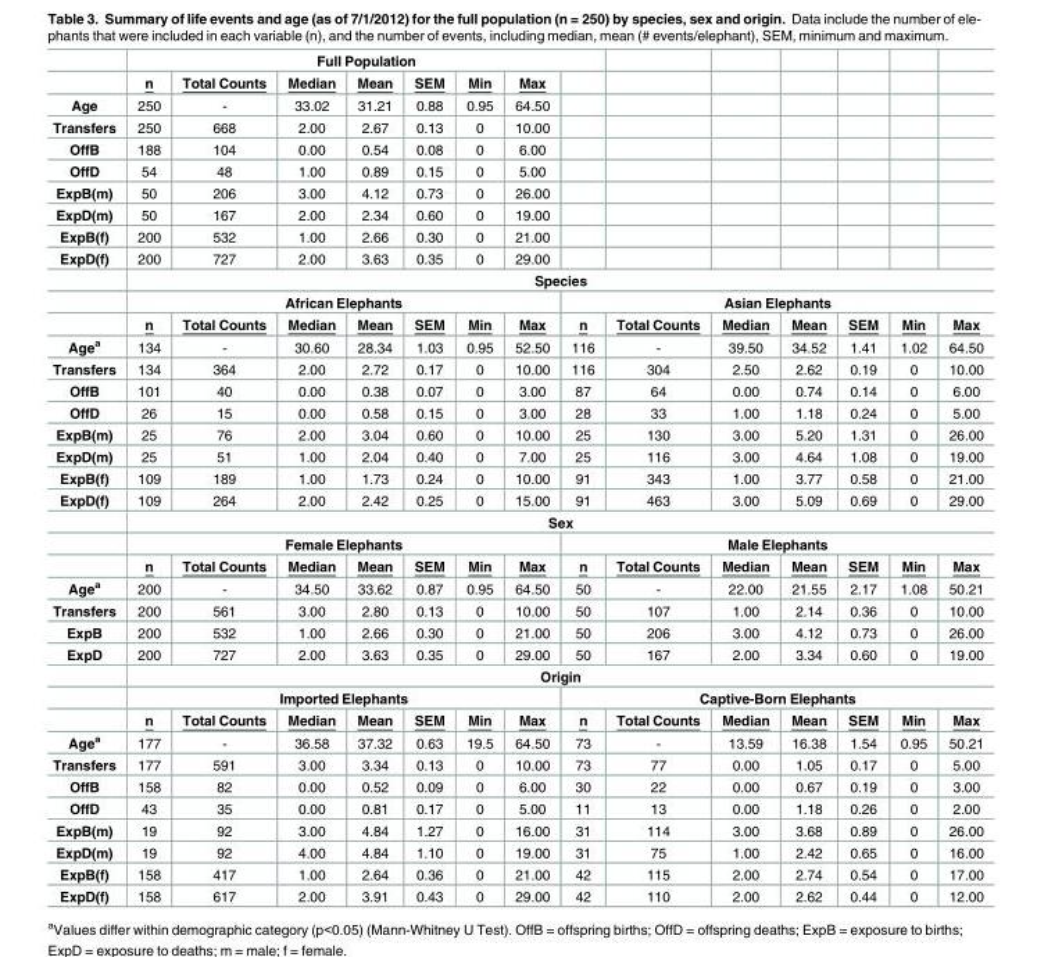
<table><thead><tr><td rowspan="2"></td><td colspan="8">Full Population</td><td rowspan="2"></td><td rowspan="2"></td><td rowspan="2"></td><td rowspan="2"></td><td rowspan="2"></td><td rowspan="2"></td></tr><tr><td>n</td><td>Total Counts</td><td>Median</td><td>Mean</td><td>SEM</td><td>Min</td><td>Max</td><td></td></tr></thead><tbody><tr><td>Age</td><td>250</td><td>-</td><td>33.02</td><td>31.21</td><td>0.88</td><td>0.95</td><td>64.50</td><td></td><td></td><td></td><td></td><td></td><td></td><td></td></tr><tr><td>Transfers</td><td>250</td><td>668</td><td>2.00</td><td>2.67</td><td>0.13</td><td>0</td><td>10.00</td><td></td><td></td><td></td><td></td><td></td><td></td><td></td></tr><tr><td>OffB</td><td>188</td><td>104</td><td>0.00</td><td>0.54</td><td>0.08</td><td>0</td><td>6.00</td><td></td><td></td><td></td><td></td><td></td><td></td><td></td></tr><tr><td>OffD</td><td>54</td><td>48</td><td>1.00</td><td>0.89</td><td>0.15</td><td>0</td><td>5.00</td><td></td><td></td><td></td><td></td><td></td><td></td><td></td></tr><tr><td>ExpB(m)</td><td>50</td><td>206</td><td>3.00</td><td>4.12</td><td>0.73</td><td>0</td><td>26.00</td><td></td><td></td><td></td><td></td><td></td><td></td><td></td></tr><tr><td>ExpD(m)</td><td>50</td><td>167</td><td>2.00</td><td>2.34</td><td>0.60</td><td>0</td><td>19.00</td><td></td><td></td><td></td><td></td><td></td><td></td><td></td></tr><tr><td>ExpB(f)</td><td>200</td><td>532</td><td>1.00</td><td>2.66</td><td>0.30</td><td>0</td><td>21.00</td><td></td><td></td><td></td><td></td><td></td><td></td><td></td></tr><tr><td rowspan="4">ExpD(f)</td><td>200</td><td>727</td><td>2.00</td><td>3.63</td><td>0.35</td><td>0</td><td>29.00</td><td></td><td></td><td></td><td></td><td></td><td></td><td></td></tr><tr><td colspan="14">Species</td></tr><tr><td colspan="7">African Elephants</td><td colspan="7">Asian Elephants</td></tr><tr><td>n</td><td>Total Counts</td><td>Median</td><td>Mean</td><td>SEM</td><td>Min</td><td>Max</td><td>n</td><td>Total Counts</td><td>Median</td><td>Mean</td><td>SEM</td><td>Min</td><td>Max</td></tr><tr><td>Age<sup>a</sup></td><td>134</td><td>-</td><td>30.60</td><td>28.34</td><td>1.03</td><td>0.95</td><td>52.50</td><td>116</td><td>-</td><td>39.50</td><td>34.52</td><td>1.41</td><td>1.02</td><td>64.50</td></tr><tr><td>Transfers</td><td>134</td><td>364</td><td>2.00</td><td>2.72</td><td>0.17</td><td>0</td><td>10.00</td><td>116</td><td>304</td><td>2.50</td><td>2.62</td><td>0.19</td><td>0</td><td>10.00</td></tr><tr><td>OffB</td><td>101</td><td>40</td><td>0.00</td><td>0.38</td><td>0.07</td><td>0</td><td>3.00</td><td>87</td><td>64</td><td>0.00</td><td>0.74</td><td>0.14</td><td>0</td><td>6.00</td></tr><tr><td>OffD</td><td>26</td><td>15</td><td>0.00</td><td>0.58</td><td>0.15</td><td>0</td><td>3.00</td><td>28</td><td>33</td><td>1.00</td><td>1.18</td><td>0.24</td><td>0</td><td>5.00</td></tr><tr><td>ExpB(m)</td><td>25</td><td>76</td><td>2.00</td><td>3.04</td><td>0.60</td><td>0</td><td>10.00</td><td>25</td><td>130</td><td>3.00</td><td>5.20</td><td>1.31</td><td>0</td><td>26.00</td></tr><tr><td>ExpD(m)</td><td>25</td><td>51</td><td>1.00</td><td>2.04</td><td>0.40</td><td>0</td><td>7.00</td><td>25</td><td>116</td><td>3.00</td><td>4.64</td><td>1.08</td><td>0</td><td>19.00</td></tr><tr><td>ExpB(f)</td><td>109</td><td>189</td><td>1.00</td><td>1.73</td><td>0.24</td><td>0</td><td>10.00</td><td>91</td><td>343</td><td>1.00</td><td>3.77</td><td>0.58</td><td>0</td><td>21.00</td></tr><tr><td rowspan="4">ExpD(f)</td><td>109</td><td>264</td><td>2.00</td><td>2.42</td><td>0.25</td><td>0</td><td>15.00</td><td>91</td><td>463</td><td>3.00</td><td>5.09</td><td>0.69</td><td>0</td><td>29.00</td></tr><tr><td colspan="14">Sex</td></tr><tr><td colspan="7">Female Elephants</td><td colspan="7">Male Elephants</td></tr><tr><td>n</td><td>Total Counts</td><td>Median</td><td>Mean</td><td>SEM</td><td>Min</td><td>Max</td><td>n</td><td>Total Counts</td><td>Median</td><td>Mean</td><td>SEM</td><td>Min</td><td>Max</td></tr><tr><td>Age<sup>a</sup></td><td>200</td><td>-</td><td>34.50</td><td>33.62</td><td>0.87</td><td>0.95</td><td>64.50</td><td>50</td><td>-</td><td>22.00</td><td>21.55</td><td>2.17</td><td>1.08</td><td>50.21</td></tr><tr><td>Transfers</td><td>200</td><td>561</td><td>3.00</td><td>2.80</td><td>0.13</td><td>0</td><td>10.00</td><td>50</td><td>107</td><td>1.00</td><td>2.14</td><td>0.36</td><td>0</td><td>10.00</td></tr><tr><td>ExpB</td><td>200</td><td>532</td><td>1.00</td><td>2.66</td><td>0.30</td><td>0</td><td>21.00</td><td>50</td><td>206</td><td>3.00</td><td>4.12</td><td>0.73</td><td>0</td><td>26.00</td></tr><tr><td rowspan="4">ExpD</td><td>200</td><td>727</td><td>2.00</td><td>3.63</td><td>0.35</td><td>0</td><td>29.00</td><td>50</td><td>167</td><td>2.00</td><td>3.34</td><td>0.60</td><td>0</td><td>19.00</td></tr><tr><td colspan="14">Origin</td></tr><tr><td colspan="7">Imported Elephants</td><td colspan="7">Captive-Born Elephants</td></tr><tr><td>n</td><td>Total Counts</td><td>Median</td><td>Mean</td><td>SEM</td><td>Min</td><td>Max</td><td>n</td><td>Total Counts</td><td>Median</td><td>Mean</td><td>SEM</td><td>Min</td><td>Max</td></tr><tr><td>Age<sup>a</sup></td><td>177</td><td>-</td><td>36.58</td><td>37.32</td><td>0.63</td><td>19.5</td><td>64.50</td><td>73</td><td>-</td><td>13.59</td><td>16.38</td><td>1.54</td><td>0.95</td><td>50.21</td></tr><tr><td>Transfers</td><td>177</td><td>591</td><td>3.00</td><td>3.34</td><td>0.13</td><td>0</td><td>10.00</td><td>73</td><td>77</td><td>0.00</td><td>1.05</td><td>0.17</td><td>0</td><td>5.00</td></tr><tr><td>OffB</td><td>158</td><td>82</td><td>0.00</td><td>0.52</td><td>0.09</td><td>0</td><td>6.00</td><td>30</td><td>22</td><td>0.00</td><td>0.67</td><td>0.19</td><td>0</td><td>3.00</td></tr><tr><td>OffD</td><td>43</td><td>35</td><td>0.00</td><td>0.81</td><td>0.17</td><td>0</td><td>5.00</td><td>11</td><td>13</td><td>0.00</td><td>1.18</td><td>0.26</td><td>0</td><td>2.00</td></tr><tr><td>ExpB(m)</td><td>19</td><td>92</td><td>3.00</td><td>4.84</td><td>1.27</td><td>0</td><td>16.00</td><td>31</td><td>114</td><td>3.00</td><td>3.68</td><td>0.89</td><td>0</td><td>26.00</td></tr><tr><td>ExpD(m)</td><td>19</td><td>92</td><td>4.00</td><td>4.84</td><td>1.10</td><td>0</td><td>19.00</td><td>31</td><td>75</td><td>1.00</td><td>2.42</td><td>0.65</td><td>0</td><td>16.00</td></tr><tr><td>ExpB(f)</td><td>158</td><td>417</td><td>1.00</td><td>2.64</td><td>0.36</td><td>0</td><td>21.00</td><td>42</td><td>115</td><td>2.00</td><td>2.74</td><td>0.54</td><td>0</td><td>17.00</td></tr><tr><td>ExpD(f)</td><td>158</td><td>617</td><td>2.00</td><td>3.91</td><td>0.43</td><td>0</td><td>29.00</td><td>42</td><td>110</td><td>2.00</td><td>2.62</td><td>0.44</td><td>0</td><td>12.00</td></tr></tbody></table>